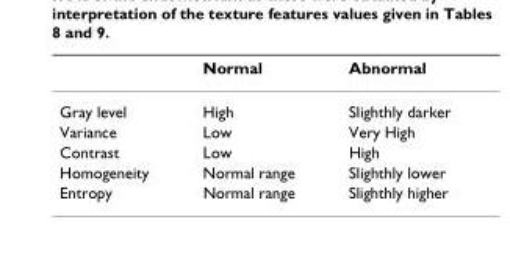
<table><thead><tr><td></td><td>Normal</td><td>Abnormal</td></tr></thead><tbody><tr><td>Gray level</td><td>High</td><td>Slighthly darker</td></tr><tr><td>Variance</td><td>Low</td><td>Very High</td></tr><tr><td>Contrast</td><td>Low</td><td>High</td></tr><tr><td>Homogeneity</td><td>Normal range</td><td>Slighthly lower</td></tr><tr><td>Entropy</td><td>Normal range</td><td>Slighthly higher</td></tr></tbody></table>